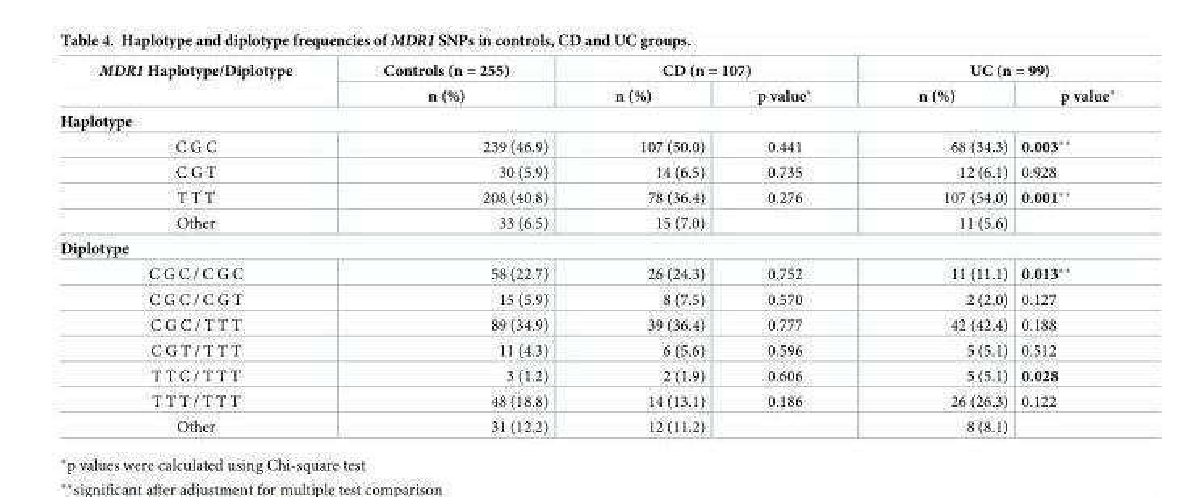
<table><thead><tr><td rowspan="2">MDR1 Haplotype/Diplotype</td><td rowspan="2">Controls (n = 255) n (%)</td><td colspan="2">CD (n = 107)</td><td colspan="2">UC (n = 99)</td></tr><tr><td>n (%)</td><td>p value*</td><td>n (%)</td><td>p value*</td></tr></thead><tbody><tr><td colspan="6">Haplotype</td></tr><tr><td>C G C</td><td>239 (46.9)</td><td>107 (50.0)</td><td>0.441</td><td>68 (34.3)</td><td>0.003**</td></tr><tr><td>C G T</td><td>30 (5.9)</td><td>14 (6.5)</td><td>0.735</td><td>12 (6.1)</td><td>0.928</td></tr><tr><td>T T T</td><td>208 (40.8)</td><td>78 (36.4)</td><td>0.276</td><td>107 (54.0)</td><td>0.001**</td></tr><tr><td>Other</td><td>33 (6.5)</td><td>15 (7.0)</td><td></td><td>11 (5.6)</td><td></td></tr><tr><td colspan="6">Diplotype</td></tr><tr><td>C G C / C G C</td><td>58 (22.7)</td><td>26 (24.3)</td><td>0.752</td><td>11 (11.1)</td><td>0.013**</td></tr><tr><td>C G C / C G T</td><td>15 (5.9)</td><td>8 (7.5)</td><td>0.570</td><td>2 (2.0)</td><td>0.127</td></tr><tr><td>C G C / T T T</td><td>89 (34.9)</td><td>39 (36.4)</td><td>0.777</td><td>42 (42.4)</td><td>0.188</td></tr><tr><td>C G T / T T T</td><td>11 (4.3)</td><td>6 (5.6)</td><td>0.596</td><td>5 (5.1)</td><td>0.512</td></tr><tr><td>T T C / T T T</td><td>3 (1.2)</td><td>2 (1.9)</td><td>0.606</td><td>5 (5.1)</td><td>0.028</td></tr><tr><td>T T T / T T T</td><td>48 (18.8)</td><td>14 (13.1)</td><td>0.186</td><td>26 (26.3)</td><td>0.122</td></tr><tr><td>Other</td><td>31 (12.2)</td><td>12 (11.2)</td><td></td><td>8 (8.1)</td><td></td></tr></tbody></table>